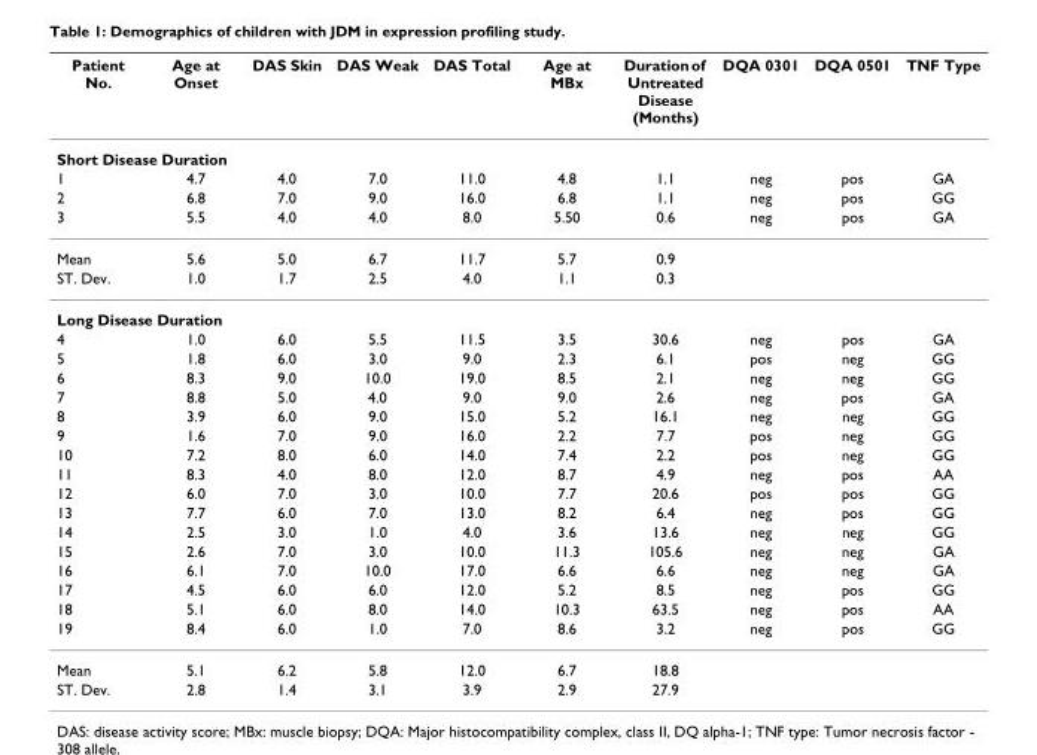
<table><thead><tr><td>Patient No.</td><td>Age at Onset</td><td>DAS Skin</td><td>DAS Weak</td><td>DAS Total</td><td>Age at MBx</td><td>Duration of Untreated Disease (Months)</td><td>DQA 0301</td><td>DQA 0501</td><td>TNF Type</td></tr></thead><tbody><tr><td colspan="10">Short Disease Duration</td></tr><tr><td>1</td><td>4.7</td><td>4.0</td><td>7.0</td><td>11.0</td><td>4.8</td><td>1.1</td><td>neg</td><td>pos</td><td>GA</td></tr><tr><td>2</td><td>6.8</td><td>7.0</td><td>9.0</td><td>16.0</td><td>6.8</td><td>1.1</td><td>neg</td><td>pos</td><td>GG</td></tr><tr><td>3</td><td>5.5</td><td>4.0</td><td>4.0</td><td>8.0</td><td>5.50</td><td>0.6</td><td>neg</td><td>pos</td><td>GA</td></tr><tr><td>Mean</td><td>5.6</td><td>5.0</td><td>6.7</td><td>11.7</td><td>5.7</td><td>0.9</td><td></td><td></td><td></td></tr><tr><td>ST. Dev.</td><td>1.0</td><td>1.7</td><td>2.5</td><td>4.0</td><td>1.1</td><td>0.3</td><td></td><td></td><td></td></tr><tr><td colspan="10">Long Disease Duration</td></tr><tr><td>4</td><td>1.0</td><td>6.0</td><td>5.5</td><td>11.5</td><td>3.5</td><td>30.6</td><td>neg</td><td>pos</td><td>GA</td></tr><tr><td>5</td><td>1.8</td><td>6.0</td><td>3.0</td><td>9.0</td><td>2.3</td><td>6.1</td><td>pos</td><td>neg</td><td>GG</td></tr><tr><td>6</td><td>8.3</td><td>9.0</td><td>10.0</td><td>19.0</td><td>8.5</td><td>2.1</td><td>neg</td><td>neg</td><td>GG</td></tr><tr><td>7</td><td>8.8</td><td>5.0</td><td>4.0</td><td>9.0</td><td>9.0</td><td>2.6</td><td>neg</td><td>pos</td><td>GA</td></tr><tr><td>8</td><td>3.9</td><td>6.0</td><td>9.0</td><td>15.0</td><td>5.2</td><td>16.1</td><td>neg</td><td>neg</td><td>GG</td></tr><tr><td>9</td><td>1.6</td><td>7.0</td><td>9.0</td><td>16.0</td><td>2.2</td><td>7.7</td><td>pos</td><td>neg</td><td>GG</td></tr><tr><td>10</td><td>7.2</td><td>8.0</td><td>6.0</td><td>14.0</td><td>7.4</td><td>2.2</td><td>pos</td><td>neg</td><td>GG</td></tr><tr><td>11</td><td>8.3</td><td>4.0</td><td>8.0</td><td>12.0</td><td>8.7</td><td>4.9</td><td>neg</td><td>pos</td><td>AA</td></tr><tr><td>12</td><td>6.0</td><td>7.0</td><td>3.0</td><td>10.0</td><td>7.7</td><td>20.6</td><td>pos</td><td>pos</td><td>GG</td></tr><tr><td>13</td><td>7.7</td><td>6.0</td><td>7.0</td><td>13.0</td><td>8.2</td><td>6.4</td><td>neg</td><td>pos</td><td>GG</td></tr><tr><td>14</td><td>2.5</td><td>3.0</td><td>1.0</td><td>4.0</td><td>3.6</td><td>13.6</td><td>neg</td><td>neg</td><td>GG</td></tr><tr><td>15</td><td>2.6</td><td>7.0</td><td>3.0</td><td>10.0</td><td>11.3</td><td>105.6</td><td>neg</td><td>neg</td><td>GA</td></tr><tr><td>16</td><td>6.1</td><td>7.0</td><td>10.0</td><td>17.0</td><td>6.6</td><td>6.6</td><td>neg</td><td>neg</td><td>GA</td></tr><tr><td>17</td><td>4.5</td><td>6.0</td><td>6.0</td><td>12.0</td><td>5.2</td><td>8.5</td><td>neg</td><td>pos</td><td>GG</td></tr><tr><td>18</td><td>5.1</td><td>6.0</td><td>8.0</td><td>14.0</td><td>10.3</td><td>63.5</td><td>neg</td><td>pos</td><td>AA</td></tr><tr><td>19</td><td>8.4</td><td>6.0</td><td>1.0</td><td>7.0</td><td>8.6</td><td>3.2</td><td>neg</td><td>pos</td><td>GG</td></tr><tr><td>Mean</td><td>5.1</td><td>6.2</td><td>5.8</td><td>12.0</td><td>6.7</td><td>18.8</td><td></td><td></td><td></td></tr><tr><td>ST. Dev.</td><td>2.8</td><td>1.4</td><td>3.1</td><td>3.9</td><td>2.9</td><td>27.9</td><td></td><td></td><td></td></tr></tbody></table>